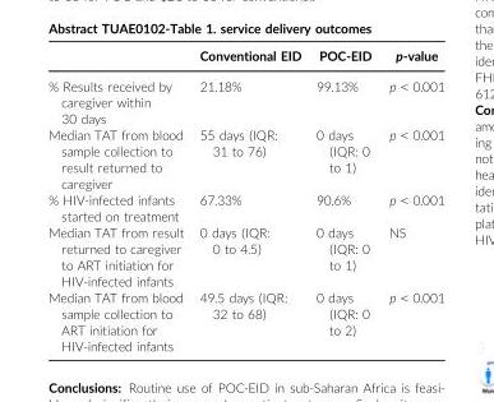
<table><thead><tr><td></td><td>Conventional EID</td><td>POC-EID</td><td>p-value</td></tr></thead><tbody><tr><td>% Results received by caregiver within 30 days</td><td>21.18%</td><td>99.13%</td><td>p &lt; 0.001</td></tr><tr><td>Median TAT from blood sample collection to result returned to caregiver</td><td>55 days (IQR: 31 to 76)</td><td>0 days (IQR: 0 to 1)</td><td>p &lt; 0.001</td></tr><tr><td>% HIV-infected infants started on treatment</td><td>67.33%</td><td>90.6%</td><td>p &lt; 0.001</td></tr><tr><td>Median TAT from result returned to caregiver to ART initiation for HIV-infected infants</td><td>0 days (IQR: 0 to 4.5)</td><td>0 days (IQR: 0 to 1)</td><td>NS</td></tr><tr><td>Median TAT from blood sample collection to ART initiation for HIV-infected infants</td><td>49.5 days (IQR: 32 to 68)</td><td>0 days (IQR: 0 to 2)</td><td>p &lt; 0.001</td></tr></tbody></table>